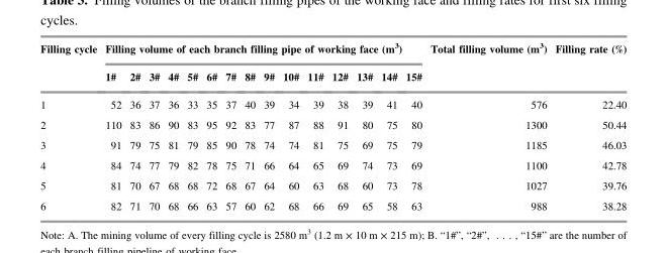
<table><thead><tr><td rowspan="2">Filling cycle</td><td colspan="15">Filling volume of each branch filling pipe of working face (m<sup>3</sup>)</td><td rowspan="2">Total filling volume (m<sup>3</sup>)</td><td rowspan="2">Filling rate (%)</td></tr><tr><td>1#</td><td>2#</td><td>3#</td><td>4#</td><td>5#</td><td>6#</td><td>7#</td><td>8#</td><td>9#</td><td>10#</td><td>11#</td><td>12#</td><td>13#</td><td>14#</td><td>15#</td></tr></thead><tbody><tr><td>1</td><td>52</td><td>36</td><td>37</td><td>36</td><td>33</td><td>35</td><td>37</td><td>40</td><td>39</td><td>34</td><td>39</td><td>38</td><td>39</td><td>41</td><td>40</td><td>576</td><td>22.40</td></tr><tr><td>2</td><td>110</td><td>83</td><td>86</td><td>90</td><td>83</td><td>95</td><td>92</td><td>83</td><td>77</td><td>87</td><td>88</td><td>91</td><td>80</td><td>75</td><td>80</td><td>1300</td><td>50.44</td></tr><tr><td>3</td><td>91</td><td>79</td><td>75</td><td>81</td><td>79</td><td>85</td><td>90</td><td>78</td><td>74</td><td>74</td><td>81</td><td>75</td><td>69</td><td>75</td><td>79</td><td>1185</td><td>46.03</td></tr><tr><td>4</td><td>84</td><td>74</td><td>77</td><td>79</td><td>82</td><td>78</td><td>75</td><td>71</td><td>66</td><td>64</td><td>65</td><td>69</td><td>74</td><td>73</td><td>69</td><td>1100</td><td>42.78</td></tr><tr><td>5</td><td>81</td><td>70</td><td>67</td><td>68</td><td>68</td><td>72</td><td>68</td><td>67</td><td>64</td><td>60</td><td>63</td><td>68</td><td>60</td><td>73</td><td>78</td><td>1027</td><td>39.76</td></tr><tr><td>6</td><td>82</td><td>71</td><td>70</td><td>68</td><td>66</td><td>63</td><td>57</td><td>60</td><td>62</td><td>68</td><td>66</td><td>69</td><td>65</td><td>58</td><td>63</td><td>988</td><td>38.28</td></tr></tbody></table>